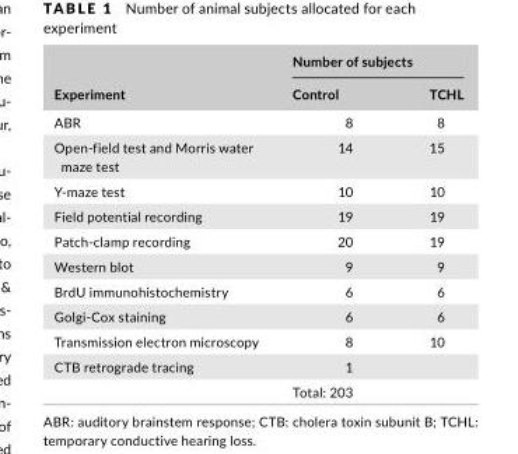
<table><thead><tr><td rowspan="2">Experiment</td><td colspan="2">Number of subjects</td></tr><tr><td>Control</td><td>TCHL</td></tr></thead><tbody><tr><td>ABR</td><td>8</td><td>8</td></tr><tr><td>Open- field test and Morris water maze test</td><td>14</td><td>15</td></tr><tr><td>Y- maze test</td><td>10</td><td>10</td></tr><tr><td>Field potential recording</td><td>19</td><td>19</td></tr><tr><td>Patch- clamp recording</td><td>20</td><td>19</td></tr><tr><td>Western blot</td><td>9</td><td>9</td></tr><tr><td>BrdU immunohistochemistry</td><td>6</td><td>6</td></tr><tr><td>Golgi- Cox staining</td><td>6</td><td>6</td></tr><tr><td>Transmission electron microscopy</td><td>8</td><td>10</td></tr><tr><td rowspan="2">CTB retrograde tracing</td><td>1</td><td></td></tr><tr><td colspan="2">Total: 203</td></tr></tbody></table>